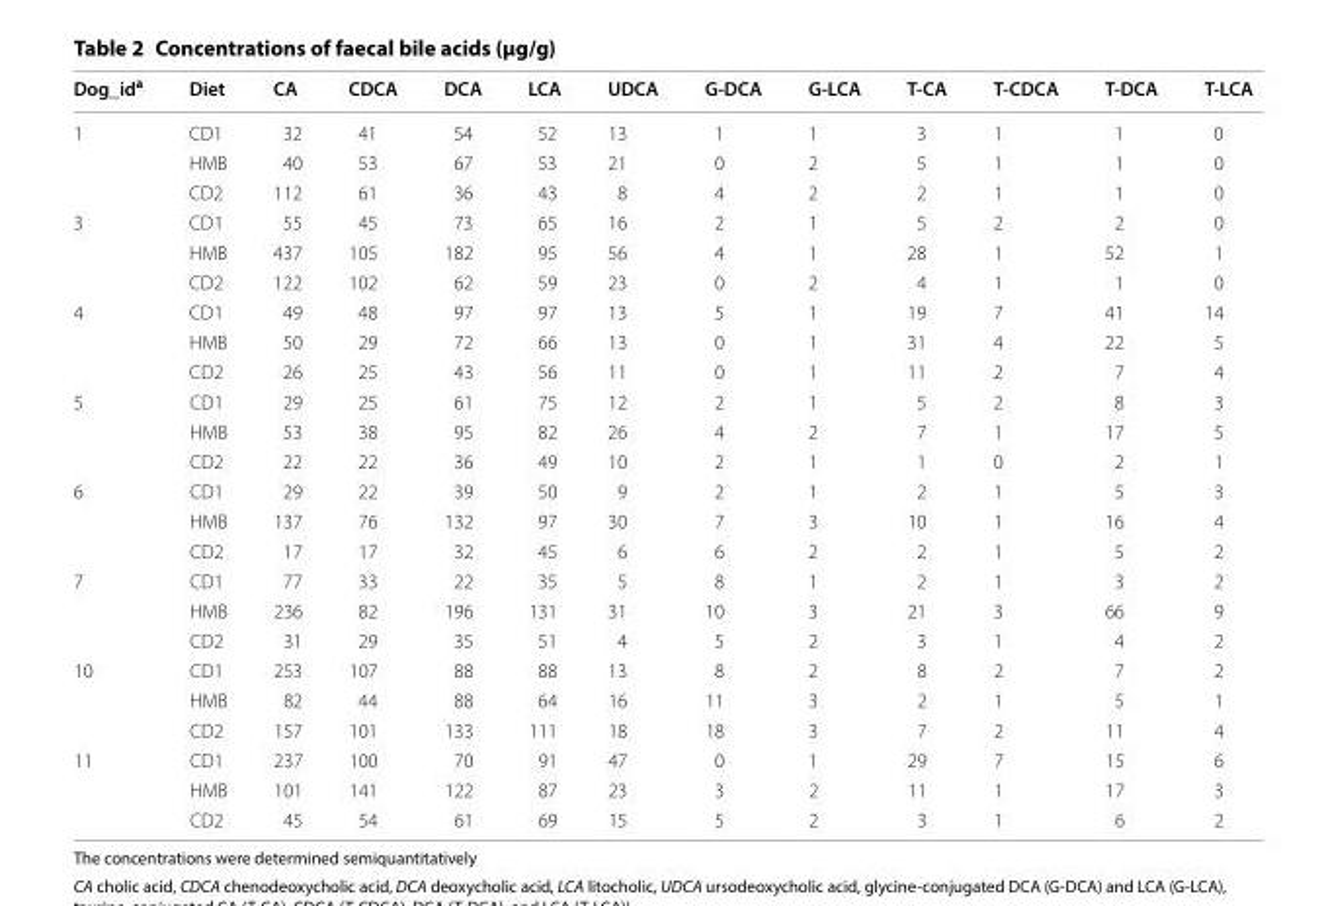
<table><thead><tr><td>Dog_id<sup>a</sup></td><td>Diet</td><td>CA</td><td>CDCA</td><td>DCA</td><td>LCA</td><td>UDCA</td><td>G-DCA</td><td>G-LCA</td><td>T-CA</td><td>T-CDCA</td><td>T-DCA</td><td>T-LCA</td></tr></thead><tbody><tr><td rowspan="3">1</td><td>CD1</td><td>32</td><td>41</td><td>54</td><td>52</td><td>13</td><td>1</td><td>1</td><td>3</td><td>1</td><td>1</td><td>0</td></tr><tr><td>HMB</td><td>40</td><td>53</td><td>67</td><td>53</td><td>21</td><td>0</td><td>2</td><td>5</td><td>1</td><td>1</td><td>0</td></tr><tr><td>CD2</td><td>112</td><td>61</td><td>36</td><td>43</td><td>8</td><td>4</td><td>2</td><td>2</td><td>1</td><td>1</td><td>0</td></tr><tr><td rowspan="3">3</td><td>CD1</td><td>55</td><td>45</td><td>73</td><td>65</td><td>16</td><td>2</td><td>1</td><td>5</td><td>2</td><td>2</td><td>0</td></tr><tr><td>HMB</td><td>437</td><td>105</td><td>182</td><td>95</td><td>56</td><td>4</td><td>1</td><td>28</td><td>1</td><td>52</td><td>1</td></tr><tr><td>CD2</td><td>122</td><td>102</td><td>62</td><td>59</td><td>23</td><td>0</td><td>2</td><td>4</td><td>1</td><td>1</td><td>0</td></tr><tr><td rowspan="3">4</td><td>CD1</td><td>49</td><td>48</td><td>97</td><td>97</td><td>13</td><td>5</td><td>1</td><td>19</td><td>7</td><td>41</td><td>14</td></tr><tr><td>HMB</td><td>50</td><td>29</td><td>72</td><td>66</td><td>13</td><td>0</td><td>1</td><td>31</td><td>4</td><td>22</td><td>5</td></tr><tr><td>CD2</td><td>26</td><td>25</td><td>43</td><td>56</td><td>11</td><td>0</td><td>1</td><td>11</td><td>2</td><td>7</td><td>4</td></tr><tr><td rowspan="3">5</td><td>CD1</td><td>29</td><td>25</td><td>61</td><td>75</td><td>12</td><td>2</td><td>1</td><td>5</td><td>2</td><td>8</td><td>3</td></tr><tr><td>HMB</td><td>53</td><td>38</td><td>95</td><td>82</td><td>26</td><td>4</td><td>2</td><td>7</td><td>1</td><td>17</td><td>5</td></tr><tr><td>CD2</td><td>22</td><td>22</td><td>36</td><td>49</td><td>10</td><td>2</td><td>1</td><td>1</td><td>0</td><td>2</td><td>1</td></tr><tr><td rowspan="3">6</td><td>CD1</td><td>29</td><td>22</td><td>39</td><td>50</td><td>9</td><td>2</td><td>1</td><td>2</td><td>1</td><td>5</td><td>3</td></tr><tr><td>HMB</td><td>137</td><td>76</td><td>132</td><td>97</td><td>30</td><td>7</td><td>3</td><td>10</td><td>1</td><td>16</td><td>4</td></tr><tr><td>CD2</td><td>17</td><td>17</td><td>32</td><td>45</td><td>6</td><td>6</td><td>2</td><td>2</td><td>1</td><td>5</td><td>2</td></tr><tr><td rowspan="3">7</td><td>CD1</td><td>77</td><td>33</td><td>22</td><td>35</td><td>5</td><td>8</td><td>1</td><td>2</td><td>1</td><td>3</td><td>2</td></tr><tr><td>HMB</td><td>236</td><td>82</td><td>196</td><td>131</td><td>31</td><td>10</td><td>3</td><td>21</td><td>3</td><td>66</td><td>9</td></tr><tr><td>CD2</td><td>31</td><td>29</td><td>35</td><td>51</td><td>4</td><td>5</td><td>2</td><td>3</td><td>1</td><td>4</td><td>2</td></tr><tr><td rowspan="3">10</td><td>CD1</td><td>253</td><td>107</td><td>88</td><td>88</td><td>13</td><td>8</td><td>2</td><td>8</td><td>2</td><td>7</td><td>2</td></tr><tr><td>HMB</td><td>82</td><td>44</td><td>88</td><td>64</td><td>16</td><td>11</td><td>3</td><td>2</td><td>1</td><td>5</td><td>1</td></tr><tr><td>CD2</td><td>157</td><td>101</td><td>133</td><td>111</td><td>18</td><td>18</td><td>3</td><td>7</td><td>2</td><td>11</td><td>4</td></tr><tr><td rowspan="3">11</td><td>CD1</td><td>237</td><td>100</td><td>70</td><td>91</td><td>47</td><td>0</td><td>1</td><td>29</td><td>7</td><td>15</td><td>6</td></tr><tr><td>HMB</td><td>101</td><td>141</td><td>122</td><td>87</td><td>23</td><td>3</td><td>2</td><td>11</td><td>1</td><td>17</td><td>3</td></tr><tr><td>CD2</td><td>45</td><td>54</td><td>61</td><td>69</td><td>15</td><td>5</td><td>2</td><td>3</td><td>1</td><td>6</td><td>2</td></tr></tbody></table>